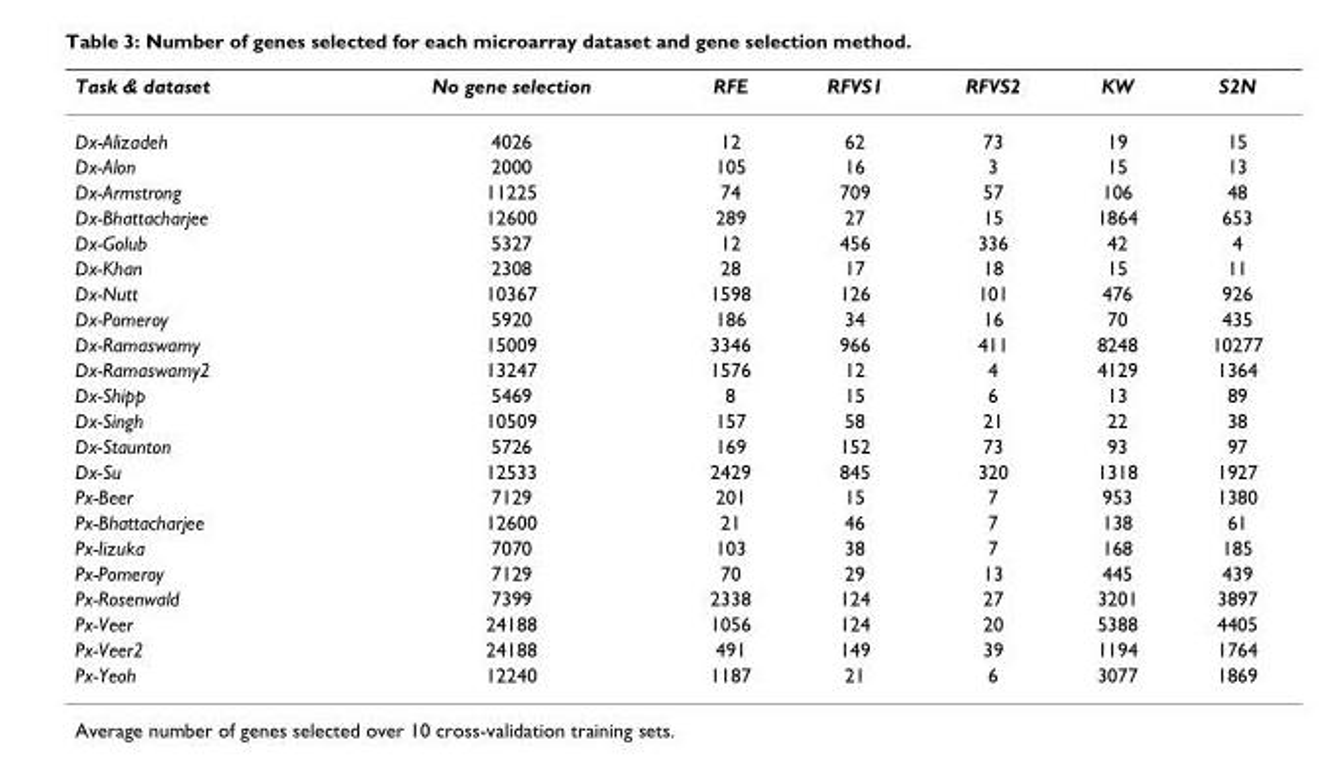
<table><thead><tr><td>Task &amp; dataset</td><td>No gene selection</td><td>RFE</td><td>RFVS1</td><td>RFVS2</td><td>KW</td><td>S2N</td></tr></thead><tbody><tr><td>Dx-Alizadeh</td><td>4026</td><td>12</td><td>62</td><td>73</td><td>19</td><td>15</td></tr><tr><td>Dx-Alon</td><td>2000</td><td>105</td><td>16</td><td>3</td><td>15</td><td>13</td></tr><tr><td>Dx-Armstrong</td><td>11225</td><td>74</td><td>709</td><td>57</td><td>106</td><td>48</td></tr><tr><td>Dx-Bhattacharjee</td><td>12600</td><td>289</td><td>27</td><td>15</td><td>1864</td><td>653</td></tr><tr><td>Dx-Golub</td><td>5327</td><td>12</td><td>456</td><td>336</td><td>42</td><td>4</td></tr><tr><td>Dx-Khan</td><td>2308</td><td>28</td><td>17</td><td>18</td><td>15</td><td>11</td></tr><tr><td>Dx-Nutt</td><td>10367</td><td>1598</td><td>126</td><td>101</td><td>476</td><td>926</td></tr><tr><td>Dx-Pomeroy</td><td>5920</td><td>186</td><td>34</td><td>16</td><td>70</td><td>435</td></tr><tr><td>Dx-Ramaswamy</td><td>15009</td><td>3346</td><td>966</td><td>411</td><td>8248</td><td>10277</td></tr><tr><td>Dx-Ramaswamy2</td><td>13247</td><td>1576</td><td>12</td><td>4</td><td>4129</td><td>1364</td></tr><tr><td>Dx-Shipp</td><td>5469</td><td>8</td><td>15</td><td>6</td><td>13</td><td>89</td></tr><tr><td>Dx-Singh</td><td>10509</td><td>157</td><td>58</td><td>21</td><td>22</td><td>38</td></tr><tr><td>Dx-Staunton</td><td>5726</td><td>169</td><td>152</td><td>73</td><td>93</td><td>97</td></tr><tr><td>Dx-Su</td><td>12533</td><td>2429</td><td>845</td><td>320</td><td>1318</td><td>1927</td></tr><tr><td>Px-Beer</td><td>7129</td><td>201</td><td>15</td><td>7</td><td>953</td><td>1380</td></tr><tr><td>Px-Bhattacharjee</td><td>12600</td><td>21</td><td>46</td><td>7</td><td>138</td><td>61</td></tr><tr><td>Px-Iizuka</td><td>7070</td><td>103</td><td>38</td><td>7</td><td>168</td><td>185</td></tr><tr><td>Px-Pomeroy</td><td>7129</td><td>70</td><td>29</td><td>13</td><td>445</td><td>439</td></tr><tr><td>Px-Rosenwald</td><td>7399</td><td>2338</td><td>124</td><td>27</td><td>3201</td><td>3897</td></tr><tr><td>Px-Veer</td><td>24188</td><td>1056</td><td>124</td><td>20</td><td>5388</td><td>4405</td></tr><tr><td>Px-Veer2</td><td>24188</td><td>491</td><td>149</td><td>39</td><td>1194</td><td>1764</td></tr><tr><td>Px-Yeoh</td><td>12240</td><td>1187</td><td>21</td><td>6</td><td>3077</td><td>1869</td></tr></tbody></table>